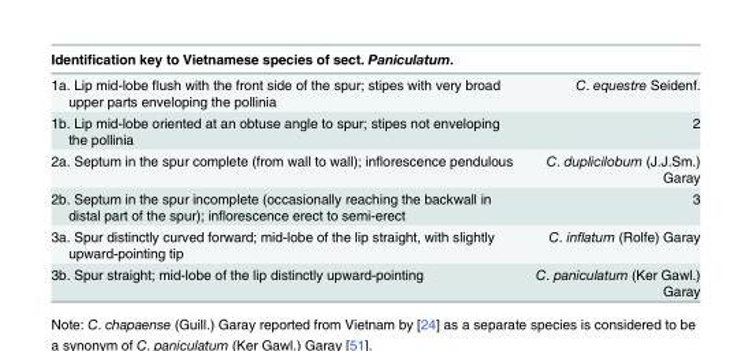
<table><thead><tr><td>Identification key to Vietnamese species of sect. Paniculatum.</td><td></td></tr></thead><tbody><tr><td>1a. Lip mid-lobe flush with the front side of the spur; stipes with very broad upper parts enveloping the pollinia</td><td>C. equestre Seidenf.</td></tr><tr><td>1b. Lip mid-lobe oriented at an obtuse angle to spur; stipes not enveloping the pollinia</td><td>2</td></tr><tr><td>2a. Septum in the spur complete (from wall to wall); inflorescence pendulous</td><td>C. duplicilobum (J.J.Sm.) Garay</td></tr><tr><td>2b. Septum in the spur incomplete (occasionally reaching the backwall in distal part of the spur); inflorescence erect to semi-erect</td><td>3</td></tr><tr><td>3a. Spur distinctly curved forward; mid-lobe of the lip straight, with slightly upward-pointing tip</td><td>C. inflatum (Rolfe) Garay</td></tr><tr><td>3b. Spur straight; mid-lobe of the lip distinctly upward-pointing</td><td>C. paniculatum (Ker Gawl.) Garay</td></tr></tbody></table>